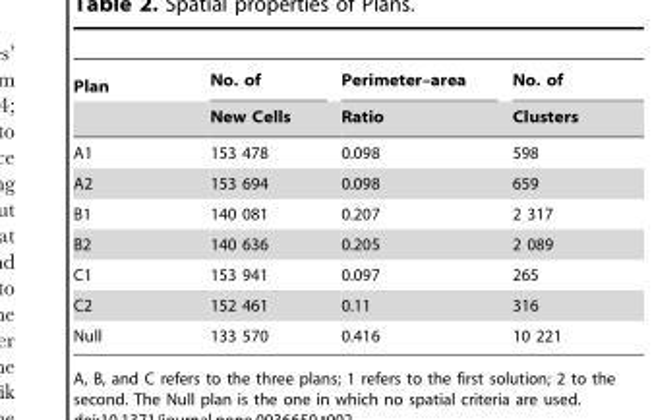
<table><thead><tr><td rowspan="2">Plan</td><td rowspan="2">No. of New Cells</td><td rowspan="2">Perimeter–area Ratio</td><td rowspan="2">No. of Clusters</td></tr><tr></tr></thead><tbody><tr><td>A1</td><td>153 478</td><td>0.098</td><td>598</td></tr><tr><td>A2</td><td>153 694</td><td>0.098</td><td>659</td></tr><tr><td>B1</td><td>140 081</td><td>0.207</td><td>2 317</td></tr><tr><td>B2</td><td>140 636</td><td>0.205</td><td>2 089</td></tr><tr><td>C1</td><td>153 941</td><td>0.097</td><td>265</td></tr><tr><td>C2</td><td>152 461</td><td>0.11</td><td>316</td></tr><tr><td>Null</td><td>133 570</td><td>0.416</td><td>10 221</td></tr></tbody></table>